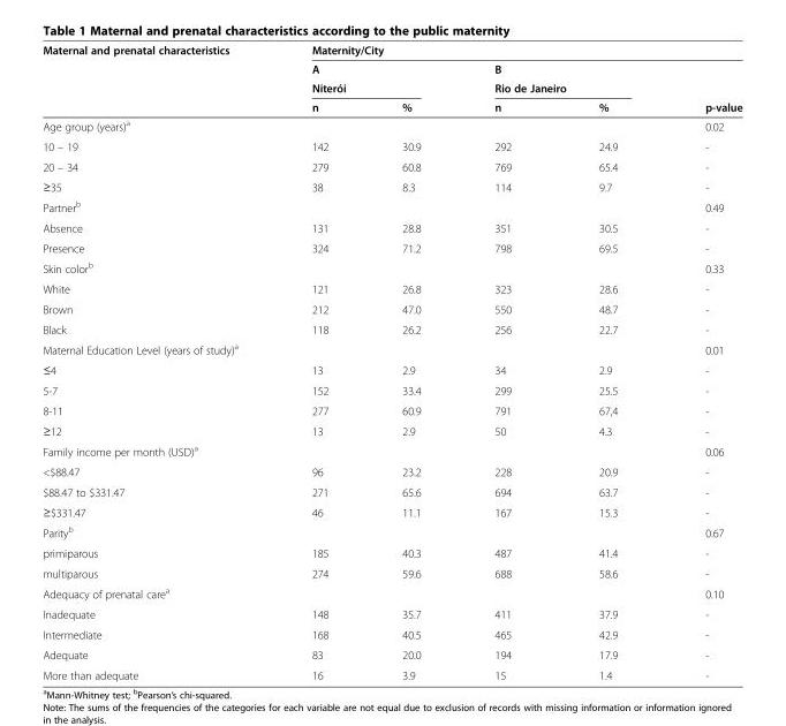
<table><thead><tr><td rowspan="4">Maternal and prenatal characteristics</td><td colspan="5">Maternity/City</td></tr><tr><td rowspan="2" colspan="2">A Niterói</td><td rowspan="2" colspan="2">B Rio de Janeiro</td><td rowspan="3">p-value</td></tr><tr></tr><tr><td>n</td><td>%</td><td>n</td><td>%</td></tr></thead><tbody><tr><td>Age group (years)<sup>a</sup></td><td></td><td></td><td></td><td></td><td>0.02</td></tr><tr><td>10 – 19</td><td>142</td><td>30.9</td><td>292</td><td>24.9</td><td>-</td></tr><tr><td>20 – 34</td><td>279</td><td>60.8</td><td>769</td><td>65.4</td><td>-</td></tr><tr><td>≥35</td><td>38</td><td>8.3</td><td>114</td><td>9.7</td><td>-</td></tr><tr><td>Partner<sup>b</sup></td><td></td><td></td><td></td><td></td><td>0.49</td></tr><tr><td>Absence</td><td>131</td><td>28.8</td><td>351</td><td>30.5</td><td>-</td></tr><tr><td>Presence</td><td>324</td><td>71.2</td><td>798</td><td>69.5</td><td>-</td></tr><tr><td>Skin color<sup>b</sup></td><td></td><td></td><td></td><td></td><td>0.33</td></tr><tr><td>White</td><td>121</td><td>26.8</td><td>323</td><td>28.6</td><td>-</td></tr><tr><td>Brown</td><td>212</td><td>47.0</td><td>550</td><td>48.7</td><td>-</td></tr><tr><td>Black</td><td>118</td><td>26.2</td><td>256</td><td>22.7</td><td>-</td></tr><tr><td>Maternal Education Level (years of study)<sup>a</sup></td><td></td><td></td><td></td><td></td><td>0.01</td></tr><tr><td>≤4</td><td>13</td><td>2.9</td><td>34</td><td>2.9</td><td>-</td></tr><tr><td>5-7</td><td>152</td><td>33.4</td><td>299</td><td>25.5</td><td>-</td></tr><tr><td>8-11</td><td>277</td><td>60.9</td><td>791</td><td>67,4</td><td>-</td></tr><tr><td>≥12</td><td>13</td><td>2.9</td><td>50</td><td>4.3</td><td>-</td></tr><tr><td colspan="2">Family income per month (USD)<sup>a</sup></td><td></td><td></td><td></td><td>0.06</td></tr><tr><td>&lt;$88.47</td><td>96</td><td>23.2</td><td>228</td><td>20.9</td><td>-</td></tr><tr><td>$88.47 to $331.47</td><td>271</td><td>65.6</td><td>694</td><td>63.7</td><td>-</td></tr><tr><td>≥$331.47</td><td>46</td><td>11.1</td><td>167</td><td>15.3</td><td>-</td></tr><tr><td>Parity<sup>b</sup></td><td></td><td></td><td></td><td></td><td>0.67</td></tr><tr><td>primiparous</td><td>185</td><td>40.3</td><td>487</td><td>41.4</td><td>-</td></tr><tr><td>multiparous</td><td>274</td><td>59.6</td><td>688</td><td>58.6</td><td>-</td></tr><tr><td>Adequacy of prenatal care<sup>a</sup></td><td></td><td></td><td></td><td></td><td>0.10</td></tr><tr><td>Inadequate</td><td>148</td><td>35.7</td><td>411</td><td>37.9</td><td>-</td></tr><tr><td>Intermediate</td><td>168</td><td>40.5</td><td>465</td><td>42.9</td><td>-</td></tr><tr><td>Adequate</td><td>83</td><td>20.0</td><td>194</td><td>17.9</td><td>-</td></tr><tr><td>More than adequate</td><td>16</td><td>3.9</td><td>15</td><td>1.4</td><td>-</td></tr></tbody></table>